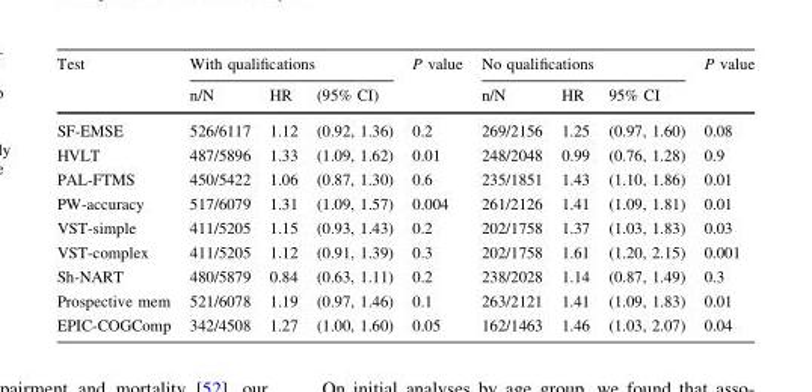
<table><thead><tr><td rowspan="2">Test</td><td colspan="3">With qualifications</td><td rowspan="2">P value</td><td colspan="3">No qualifications</td><td rowspan="2">P value</td></tr><tr><td>n/N</td><td>HR</td><td>(95% CI)</td><td>n/N</td><td>HR</td><td>95% CI</td></tr></thead><tbody><tr><td>SF-EMSE</td><td>526/6117</td><td>1.12</td><td>(0.92, 1.36)</td><td>0.2</td><td>269/2156</td><td>1.25</td><td>(0.97, 1.60)</td><td>0.08</td></tr><tr><td>HVLT</td><td>487/5896</td><td>1.33</td><td>(1.09, 1.62)</td><td>0.01</td><td>248/2048</td><td>0.99</td><td>(0.76, 1.28)</td><td>0.9</td></tr><tr><td>PAL-FTMS</td><td>450/5422</td><td>1.06</td><td>(0.87, 1.30)</td><td>0.6</td><td>235/1851</td><td>1.43</td><td>(1.10, 1.86)</td><td>0.01</td></tr><tr><td>PW-accuracy</td><td>517/6079</td><td>1.31</td><td>(1.09, 1.57)</td><td>0.004</td><td>261/2126</td><td>1.41</td><td>(1.09, 1.81)</td><td>0.01</td></tr><tr><td>VST-simple</td><td>411/5205</td><td>1.15</td><td>(0.93, 1.43)</td><td>0.2</td><td>202/1758</td><td>1.37</td><td>(1.03, 1.83)</td><td>0.03</td></tr><tr><td>VST-complex</td><td>411/5205</td><td>1.12</td><td>(0.91, 1.39)</td><td>0.3</td><td>202/1758</td><td>1.61</td><td>(1.20, 2.15)</td><td>0.001</td></tr><tr><td>Sh-NART</td><td>480/5879</td><td>0.84</td><td>(0.63, 1.11)</td><td>0.2</td><td>238/2028</td><td>1.14</td><td>(0.87, 1.49)</td><td>0.3</td></tr><tr><td>Prospective mem</td><td>521/6078</td><td>1.19</td><td>(0.97, 1.46)</td><td>0.1</td><td>263/2121</td><td>1.41</td><td>(1.09, 1.83)</td><td>0.01</td></tr><tr><td>EPIC-COGComp</td><td>342/4508</td><td>1.27</td><td>(1.00, 1.60)</td><td>0.05</td><td>162/1463</td><td>1.46</td><td>(1.03, 2.07)</td><td>0.04</td></tr></tbody></table>